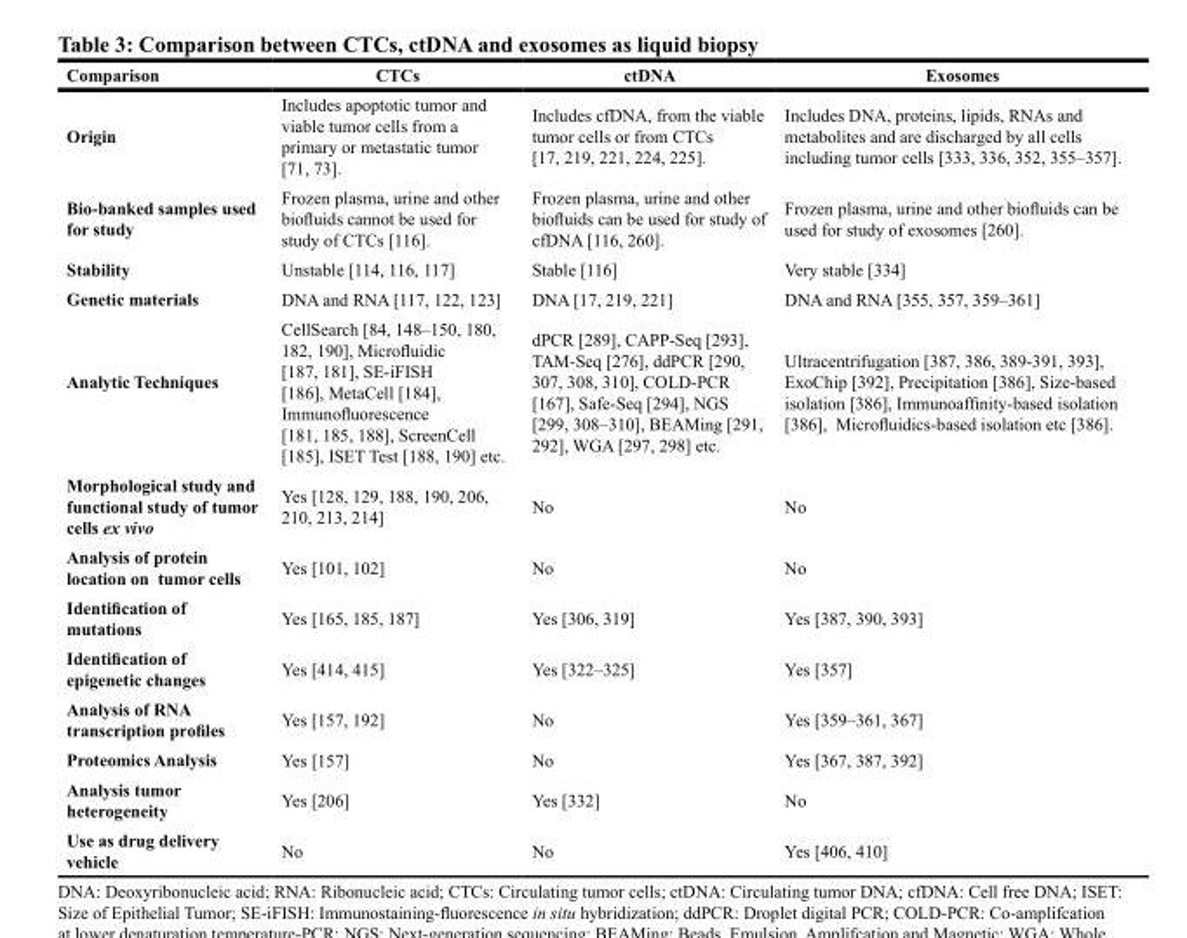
<table><thead><tr><td>Comparison</td><td>CTCs</td><td>ctDNA</td><td>Exosomes</td></tr></thead><tbody><tr><td>Origin</td><td>Includes apoptotic tumor and viable tumor cells from a primary or metastatic tumor [71, 73].</td><td>Includes cfDNA, from the viable tumor cells or from CTCs [17, 219, 221, 224, 225].</td><td>Includes DNA, proteins, lipids, RNAs and metabolites and are discharged by all cells including tumor cells [333, 336, 352, 355–357].</td></tr><tr><td>Bio-banked samples used for study</td><td>Frozen plasma, urine and other biofluids cannot be used for study of CTCs [116].</td><td>Frozen plasma, urine and other biofluids can be used for study of cfDNA [116, 260].</td><td>Frozen plasma, urine and other biofluids can be used for study of exosomes [260].</td></tr><tr><td>Stability</td><td>Unstable [114, 116, 117]</td><td>Stable [116]</td><td>Very stable [334]</td></tr><tr><td>Genetic materials</td><td>DNA and RNA [117, 122, 123]</td><td>DNA [17, 219, 221]</td><td>DNA and RNA [355, 357, 359–361]</td></tr><tr><td>Analytic Techniques</td><td>CellSearch [84, 148–150, 180, 182, 190], Microfluidic [187, 181], SE-iFISH [186], MetaCell [184], Immunofluorescence [181, 185, 188], ScreenCell [185], ISET Test [188, 190] etc.</td><td>dPCR [289], CAPP-Seq [293], TAM-Seq [276], ddPCR [290, 307, 308, 310], COLD-PCR [167], Safe-Seq [294], NGS [299, 308–310], BEAMing [291, 292], WGA [297, 298] etc.</td><td>Ultracentrifugation [387, 386, 389-391, 393], ExoChip [392], Precipitation [386], Size-based isolation [386], Immunoaffinity-based isolation [386], Microfluidics-based isolation etc [386].</td></tr><tr><td>Morphological study and functional study of tumor cells ex vivo</td><td>Yes [128, 129, 188, 190, 206, 210, 213, 214]</td><td>No</td><td>No</td></tr><tr><td>Analysis of protein location on tumor cells</td><td>Yes [101, 102]</td><td>No</td><td>No</td></tr><tr><td>Identification of mutations</td><td>Yes [165, 185, 187]</td><td>Yes [306, 319]</td><td>Yes [387, 390, 393]</td></tr><tr><td>Identification of epigenetic changes</td><td>Yes [414, 415]</td><td>Yes [322–325]</td><td>Yes [357]</td></tr><tr><td>Analysis of RNA transcription profiles</td><td>Yes [157, 192]</td><td>No</td><td>Yes [359–361, 367]</td></tr><tr><td>Proteomics Analysis</td><td>Yes [157]</td><td>No</td><td>Yes [367, 387, 392]</td></tr><tr><td>Analysis tumor heterogeneity</td><td>Yes [206]</td><td>Yes [332]</td><td>No</td></tr><tr><td>Use as drug delivery vehicle</td><td>No</td><td>No</td><td>Yes [406, 410]</td></tr></tbody></table>